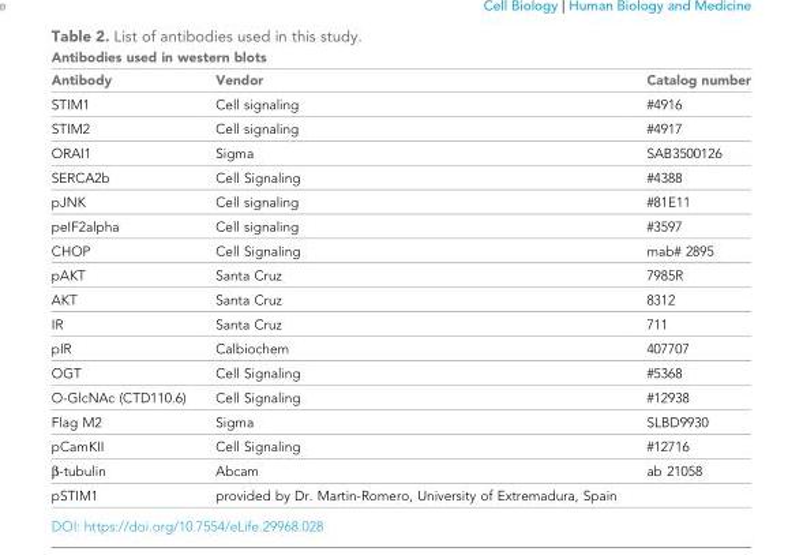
<table><thead><tr><td colspan="3">Antibodies used in western blots</td></tr><tr><td>Antibody</td><td>Vendor</td><td>Catalog number</td></tr></thead><tbody><tr><td>STIM1</td><td>Cell signaling</td><td>#4916</td></tr><tr><td>STIM2</td><td>Cell signaling</td><td>#4917</td></tr><tr><td>ORAI1</td><td>Sigma</td><td>SAB3500126</td></tr><tr><td>SERCA2b</td><td>Cell Signaling</td><td>#4388</td></tr><tr><td>pJNK</td><td>Cell signaling</td><td>#81E11</td></tr><tr><td>peIF2alpha</td><td>Cell signaling</td><td>#3597</td></tr><tr><td>CHOP</td><td>Cell Signaling</td><td>mab# 2895</td></tr><tr><td>pAKT</td><td>Santa Cruz</td><td>7985R</td></tr><tr><td>AKT</td><td>Santa Cruz</td><td>8312</td></tr><tr><td>IR</td><td>Santa Cruz</td><td>711</td></tr><tr><td>pIR</td><td>Calbiochem</td><td>407707</td></tr><tr><td>OGT</td><td>Cell Signaling</td><td>#5368</td></tr><tr><td>O-GlcNAc (CTD110.6)</td><td>Cell Signaling</td><td>#12938</td></tr><tr><td>Flag M2</td><td>Sigma</td><td>SLBD9930</td></tr><tr><td>pCamKII</td><td>Cell Signaling</td><td>#12716</td></tr><tr><td>β-tubulin</td><td>Abcam</td><td>ab 21058</td></tr><tr><td>pSTIM1</td><td>provided by Dr. Martin-Romero, University of Extremadura, Spain</td><td></td></tr></tbody></table>